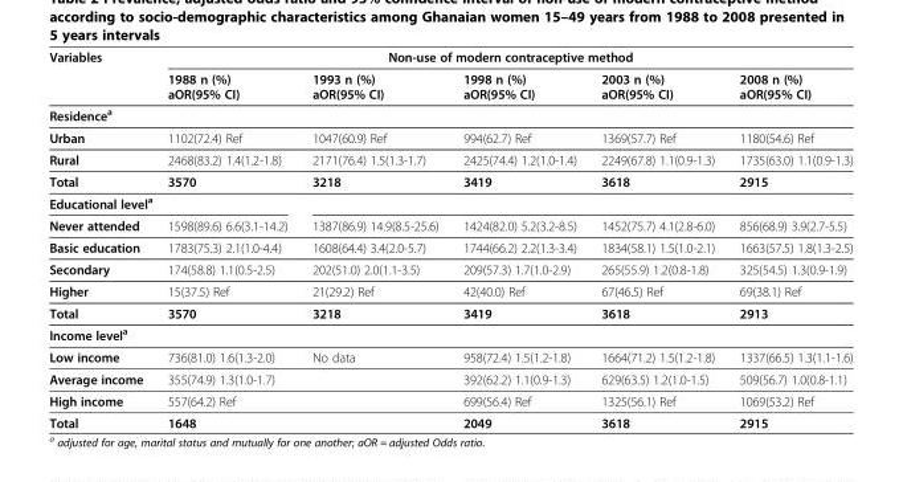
<table><thead><tr><td rowspan="2">Variables</td><td colspan="5">Non-use of modern contraceptive method</td></tr><tr><td>1988 n (%) aOR(95% CI)</td><td>1993 n (%) aOR(95% CI)</td><td>1998 n (%) aOR(95% CI)</td><td>2003 n (%) aOR(95% CI)</td><td>2008 n (%) aOR(95% CI)</td></tr></thead><tbody><tr><td colspan="6">Residence<sup>a</sup></td></tr><tr><td>Urban</td><td>1102(72.4) Ref</td><td>1047(60.9) Ref</td><td>994(62.7) Ref</td><td>1369(57.7) Ref</td><td>1180(54.6) Ref</td></tr><tr><td>Rural</td><td>2468(83.2) 1.4(1.2-1.8)</td><td>2171(76.4) 1.5(1.3-1.7)</td><td>2425(74.4) 1.2(1.0-1.4)</td><td>2249(67.8) 1.1(0.9-1.3)</td><td>1735(63.0) 1.1(0.9-1.3)</td></tr><tr><td>Total</td><td>3570</td><td>3218</td><td>3419</td><td>3618</td><td>2915</td></tr><tr><td colspan="6">Educational level<sup>a</sup></td></tr><tr><td>Never attended</td><td>1598(89.6) 6.6(3.1-14.2)</td><td>1387(86.9) 14.9(8.5-25.6)</td><td>1424(82.0) 5.2(3.2-8.5)</td><td>1452(75.7) 4.1(2.8-6.0)</td><td>856(68.9) 3.9(2.7-5.5)</td></tr><tr><td>Basic education</td><td>1783(75.3) 2.1(1.0-4.4)</td><td>1608(64.4) 3.4(2.0-5.7)</td><td>1744(66.2) 2.2(1.3-3.4)</td><td>1834(58.1) 1.5(1.0-2.1)</td><td>1663(57.5) 1.8(1.3-2.5)</td></tr><tr><td>Secondary</td><td>174(58.8) 1.1(0.5-2.5)</td><td>202(51.0) 2.0(1.1-3.5)</td><td>209(57.3) 1.7(1.0-2.9)</td><td>265(55.9) 1.2(0.8-1.8)</td><td>325(54.5) 1.3(0.9-1.9)</td></tr><tr><td>Higher</td><td>15(37.5) Ref</td><td>21(29.2) Ref</td><td>42(40.0) Ref</td><td>67(46.5) Ref</td><td>69(38.1) Ref</td></tr><tr><td>Total</td><td>3570</td><td>3218</td><td>3419</td><td>3618</td><td>2913</td></tr><tr><td colspan="6">Income level<sup>a</sup></td></tr><tr><td>Low income</td><td>736(81.0) 1.6(1.3-2.0)</td><td>No data</td><td>958(72.4) 1.5(1.2-1.8)</td><td>1664(71.2) 1.5(1.2-1.8)</td><td>1337(66.5) 1.3(1.1-1.6)</td></tr><tr><td>Average income</td><td>355(74.9) 1.3(1.0-1.7)</td><td></td><td>392(62.2) 1.1(0.9-1.3)</td><td>629(63.5) 1.2(1.0-1.5)</td><td>509(56.7) 1.0(0.8-1.1)</td></tr><tr><td>High income</td><td>557(64.2) Ref</td><td></td><td>699(56.4) Ref</td><td>1325(56.1) Ref</td><td>1069(53.2) Ref</td></tr><tr><td>Total</td><td>1648</td><td></td><td>2049</td><td>3618</td><td>2915</td></tr></tbody></table>